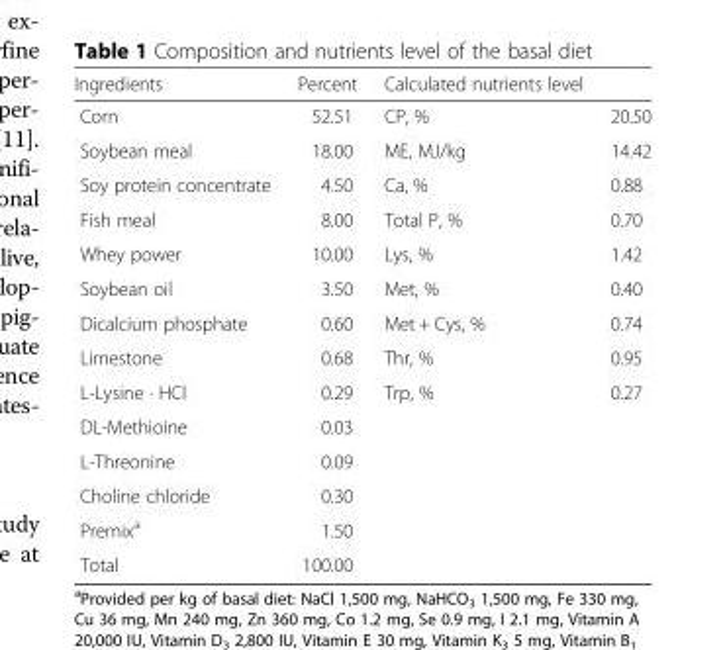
<table><thead><tr><td>Ingredients</td><td>Percent</td><td>Calculated nutrients level</td><td></td></tr></thead><tbody><tr><td>Corn</td><td>52.51</td><td>CP, %</td><td>20.50</td></tr><tr><td>Soybean meal</td><td>18.00</td><td>ME, MJ/kg</td><td>14.42</td></tr><tr><td>Soy protein concentrate</td><td>4.50</td><td>Ca, %</td><td>0.88</td></tr><tr><td>Fish meal</td><td>8.00</td><td>Total P, %</td><td>0.70</td></tr><tr><td>Whey power</td><td>10.00</td><td>Lys, %</td><td>1.42</td></tr><tr><td>Soybean oil</td><td>3.50</td><td>Met, %</td><td>0.40</td></tr><tr><td>Dicalcium phosphate</td><td>0.60</td><td>Met + Cys, %</td><td>0.74</td></tr><tr><td>Limestone</td><td>0.68</td><td>Thr, %</td><td>0.95</td></tr><tr><td>L-Lysine · HCl</td><td>0.29</td><td>Trp, %</td><td>0.27</td></tr><tr><td>DL-Methioine</td><td>0.03</td><td></td><td></td></tr><tr><td>L-Threonine</td><td>0.09</td><td></td><td></td></tr><tr><td>Choline chloride</td><td>0.30</td><td></td><td></td></tr><tr><td>Premix<sup>a</sup></td><td>1.50</td><td></td><td></td></tr><tr><td>Total</td><td>100.00</td><td></td><td></td></tr></tbody></table>